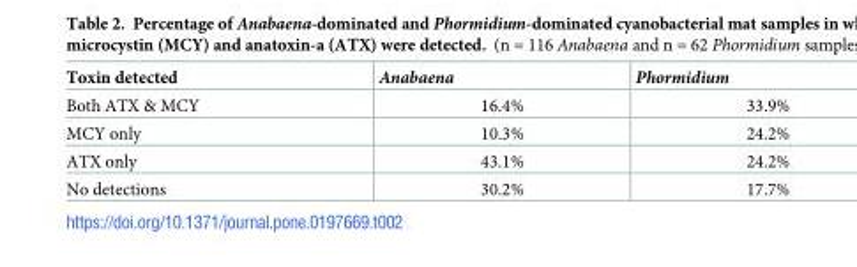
<table><thead><tr><td>Toxin detected</td><td>Anabaena</td><td>Phormidium</td></tr></thead><tbody><tr><td>Both ATX &amp; MCY</td><td>16.4%</td><td>33.9%</td></tr><tr><td>MCY only</td><td>10.3%</td><td>24.2%</td></tr><tr><td>ATX only</td><td>43.1%</td><td>24.2%</td></tr><tr><td>No detections</td><td>30.2%</td><td>17.7%</td></tr></tbody></table>